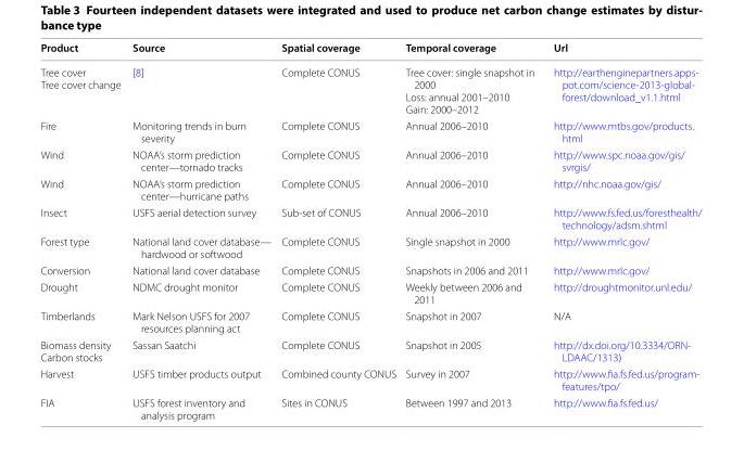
<table><thead><tr><td>Product</td><td>Source</td><td>Spatial coverage</td><td>Temporal coverage</td><td>Url</td></tr></thead><tbody><tr><td>Tree cover Tree cover change</td><td>[8]</td><td>Complete CONUS</td><td>Tree cover: single snapshot in 2000 Loss: annual 2001–2010 Gain: 2000–2012</td><td>http://earthenginepartners.apps- pot.com/science-2013-global- forest/download_v1.1.html</td></tr><tr><td>Fire</td><td>Monitoring trends in burn severity</td><td>Complete CONUS</td><td>Annual 2006–2010</td><td>http://www.mtbs.gov/products. html</td></tr><tr><td>Wind</td><td>NOAA’s storm prediction center—tornado tracks</td><td>Complete CONUS</td><td>Annual 2006–2010</td><td>http://www.spc.noaa.gov/gis/ svrgis/</td></tr><tr><td>Wind</td><td>NOAA’s storm prediction center—hurricane paths</td><td>Complete CONUS</td><td>Annual 2006–2010</td><td>http://nhc.noaa.gov/gis/</td></tr><tr><td>Insect</td><td>USFS aerial detection survey</td><td>Sub-set of CONUS</td><td>Annual 2006–2010</td><td>http://www.fs.fed.us/foresthealth/ technology/adsm.shtml</td></tr><tr><td>Forest type</td><td>National land cover database— hardwood or softwood</td><td>Complete CONUS</td><td>Single snapshot in 2000</td><td>http://www.mrlc.gov/</td></tr><tr><td>Conversion</td><td>National land cover database</td><td>Complete CONUS</td><td>Snapshots in 2006 and 2011</td><td>http://www.mrlc.gov/</td></tr><tr><td>Drought</td><td>NDMC drought monitor</td><td>Complete CONUS</td><td>Weekly between 2006 and 2011</td><td>http://droughtmonitor.unl.edu/</td></tr><tr><td>Timberlands</td><td>Mark Nelson USFS for 2007 resources planning act</td><td>Complete CONUS</td><td>Snapshot in 2007</td><td>N/A</td></tr><tr><td>Biomass density Carbon stocks</td><td>Sassan Saatchi</td><td>Complete CONUS</td><td>Snapshot in 2005</td><td>http://dx.doi.org/10.3334/ORN- LDAAC/1313)</td></tr><tr><td>Harvest</td><td>USFS timber products output</td><td>Combined county CONUS</td><td>Survey in 2007</td><td>http://www.fia.fs.fed.us/program- features/tpo/</td></tr><tr><td>FIA</td><td>USFS forest inventory and analysis program</td><td>Sites in CONUS</td><td>Between 1997 and 2013</td><td>http://www.fia.fs.fed.us/</td></tr></tbody></table>